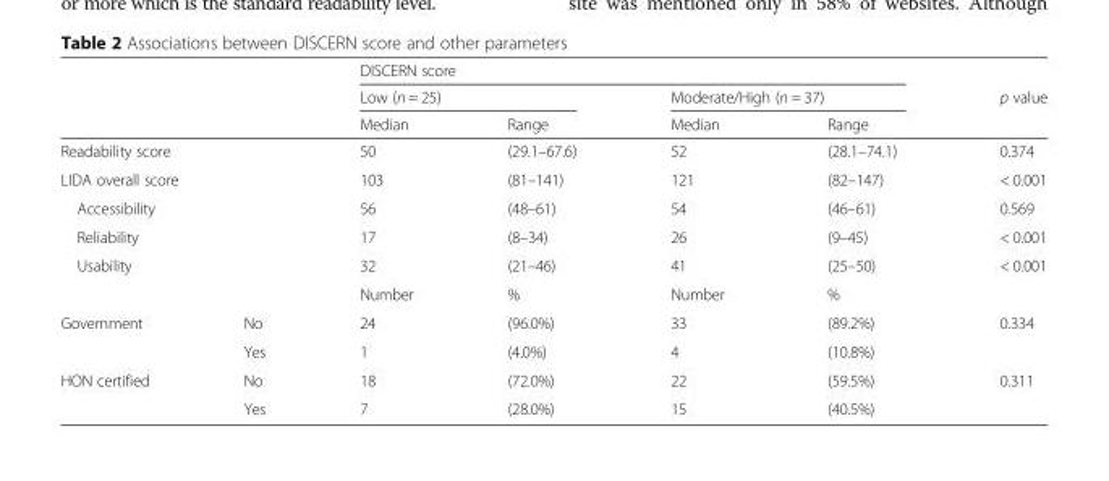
<table><thead><tr><td rowspan="3"></td><td rowspan="3"></td><td colspan="4">DISCERN score</td><td rowspan="3">p value</td></tr><tr><td colspan="2">Low (n = 25)</td><td colspan="2">Moderate/High (n = 37)</td></tr><tr><td>Median</td><td>Range</td><td>Median</td><td>Range</td></tr></thead><tbody><tr><td colspan="2">Readability score</td><td>50</td><td>(29.1–67.6)</td><td>52</td><td>(28.1–74.1)</td><td>0.374</td></tr><tr><td colspan="2">LIDA overall score</td><td>103</td><td>(81–141)</td><td>121</td><td>(82–147)</td><td>&lt; 0.001</td></tr><tr><td colspan="2">Accessibility</td><td>56</td><td>(48–61)</td><td>54</td><td>(46–61)</td><td>0.569</td></tr><tr><td colspan="2">Reliability</td><td>17</td><td>(8–34)</td><td>26</td><td>(9–45)</td><td>&lt; 0.001</td></tr><tr><td rowspan="2" colspan="2">Usability</td><td>32</td><td>(21–46)</td><td>41</td><td>(25–50)</td><td>&lt; 0.001</td></tr><tr><td>Number</td><td>%</td><td>Number</td><td>%</td><td></td></tr><tr><td rowspan="2">Government</td><td>No</td><td>24</td><td>(96.0%)</td><td>33</td><td>(89.2%)</td><td>0.334</td></tr><tr><td>Yes</td><td>1</td><td>(4.0%)</td><td>4</td><td>(10.8%)</td><td></td></tr><tr><td rowspan="2">HON certified</td><td>No</td><td>18</td><td>(72.0%)</td><td>22</td><td>(59.5%)</td><td>0.311</td></tr><tr><td>Yes</td><td>7</td><td>(28.0%)</td><td>15</td><td>(40.5%)</td><td></td></tr></tbody></table>